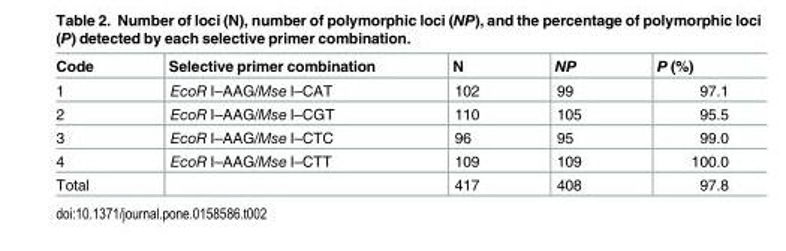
<table><thead><tr><td>Code</td><td>Selective primer combination</td><td>N</td><td>NP</td><td>P (%)</td></tr></thead><tbody><tr><td>1</td><td>EcoR I–AAG/Mse I–CAT</td><td>102</td><td>99</td><td>97.1</td></tr><tr><td>2</td><td>EcoR I–AAG/Mse I–CGT</td><td>110</td><td>105</td><td>95.5</td></tr><tr><td>3</td><td>EcoR I–AAG/Mse I–CTC</td><td>96</td><td>95</td><td>99.0</td></tr><tr><td>4</td><td>EcoR I–AAG/Mse I–CTT</td><td>109</td><td>109</td><td>100.0</td></tr><tr><td>Total</td><td></td><td>417</td><td>408</td><td>97.8</td></tr></tbody></table>